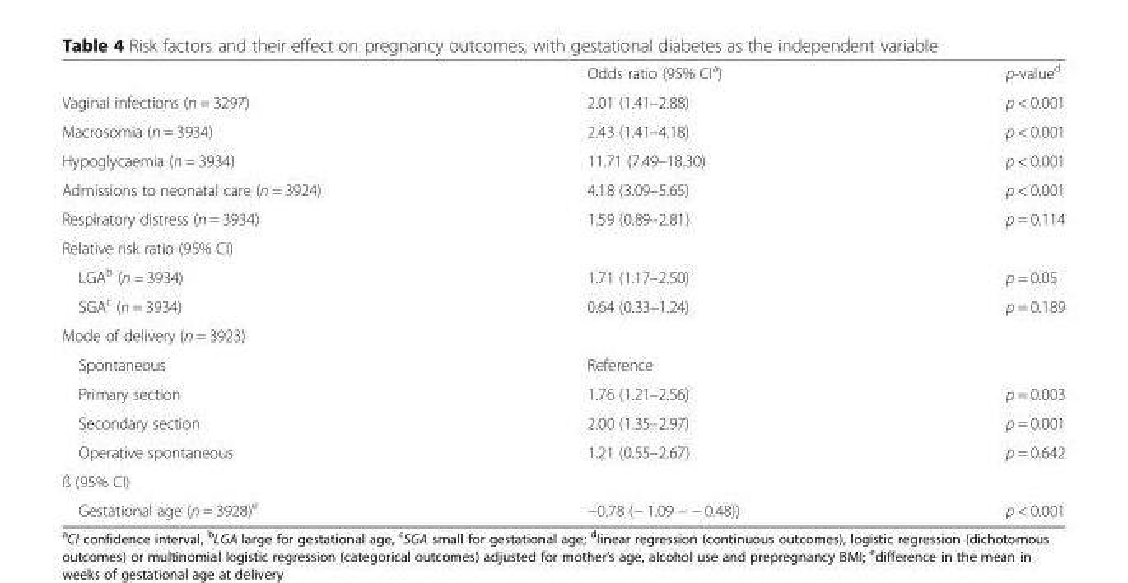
<table><thead><tr><td></td><td>Odds ratio (95% CI<sup>a</sup>)</td><td>p-value<sup>d</sup></td></tr></thead><tbody><tr><td>Vaginal infections (n = 3297)</td><td>2.01 (1.41–2.88)</td><td>p &lt; 0.001</td></tr><tr><td>Macrosomia (n = 3934)</td><td>2.43 (1.41–4.18)</td><td>p &lt; 0.001</td></tr><tr><td>Hypoglycaemia (n = 3934)</td><td>11.71 (7.49–18.30)</td><td>p &lt; 0.001</td></tr><tr><td>Admissions to neonatal care (n = 3924)</td><td>4.18 (3.09–5.65)</td><td>p &lt; 0.001</td></tr><tr><td>Respiratory distress (n = 3934)</td><td>1.59 (0.89–2.81)</td><td>p = 0.114</td></tr><tr><td colspan="3">Relative risk ratio (95% CI)</td></tr><tr><td>LGA<sup>b</sup> (n = 3934)</td><td>1.71 (1.17–2.50)</td><td>p = 0.05</td></tr><tr><td>SGA<sup>c</sup> (n = 3934)</td><td>0.64 (0.33–1.24)</td><td>p = 0.189</td></tr><tr><td colspan="3">Mode of delivery (n = 3923)</td></tr><tr><td>Spontaneous</td><td>Reference</td><td></td></tr><tr><td>Primary section</td><td>1.76 (1.21–2.56)</td><td>p = 0.003</td></tr><tr><td>Secondary section</td><td>2.00 (1.35–2.97)</td><td>p = 0.001</td></tr><tr><td>Operative spontaneous</td><td>1.21 (0.55–2.67)</td><td>p = 0.642</td></tr><tr><td colspan="3">ß (95% CI)</td></tr><tr><td>Gestational age (n = 3928)<sup>e</sup></td><td>−0.78 (− 1.09 – − 0.48))</td><td>p &lt; 0.001</td></tr></tbody></table>